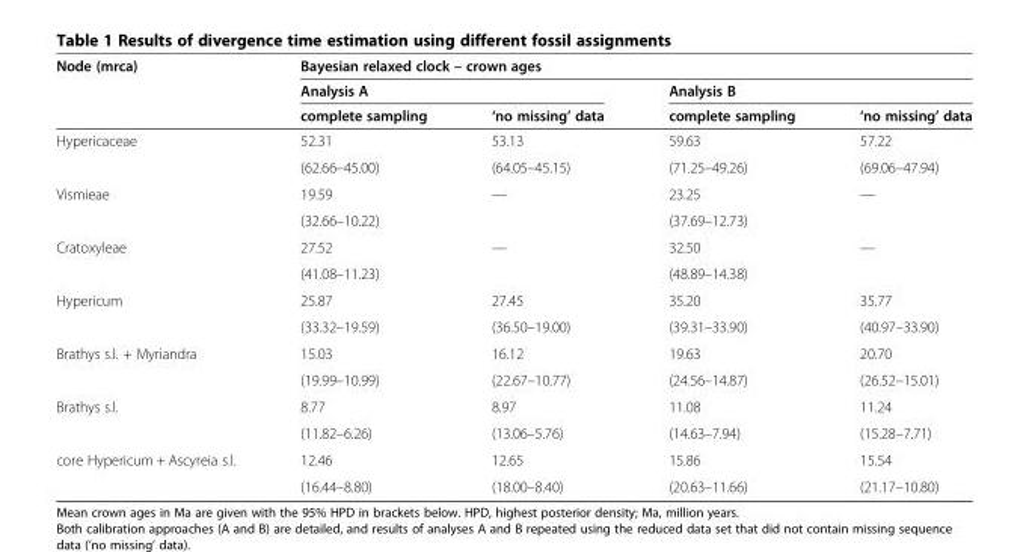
<table><thead><tr><td rowspan="3">Node (mrca)</td><td colspan="4">Bayesian relaxed clock – crown ages</td></tr><tr><td colspan="2">Analysis A</td><td colspan="2">Analysis B</td></tr><tr><td>complete sampling</td><td>‘no missing’ data</td><td>complete sampling</td><td>‘no missing’ data</td></tr></thead><tbody><tr><td rowspan="2">Hypericaceae</td><td>52.31</td><td>53.13</td><td>59.63</td><td>57.22</td></tr><tr><td>(62.66–45.00)</td><td>(64.05–45.15)</td><td>(71.25–49.26)</td><td>(69.06–47.94)</td></tr><tr><td rowspan="2">Vismieae</td><td>19.59</td><td>—</td><td>23.25</td><td>—</td></tr><tr><td>(32.66–10.22)</td><td></td><td>(37.69–12.73)</td><td></td></tr><tr><td rowspan="2">Cratoxyleae</td><td>27.52</td><td>—</td><td>32.50</td><td>—</td></tr><tr><td>(41.08–11.23)</td><td></td><td>(48.89–14.38)</td><td></td></tr><tr><td rowspan="2">Hypericum</td><td>25.87</td><td>27.45</td><td>35.20</td><td>35.77</td></tr><tr><td>(33.32–19.59)</td><td>(36.50–19.00)</td><td>(39.31–33.90)</td><td>(40.97–33.90)</td></tr><tr><td rowspan="2">Brathys s.l. + Myriandra</td><td>15.03</td><td>16.12</td><td>19.63</td><td>20.70</td></tr><tr><td>(19.99–10.99)</td><td>(22.67–10.77)</td><td>(24.56–14.87)</td><td>(26.52–15.01)</td></tr><tr><td rowspan="2">Brathys s.l.</td><td>8.77</td><td>8.97</td><td>11.08</td><td>11.24</td></tr><tr><td>(11.82–6.26)</td><td>(13.06–5.76)</td><td>(14.63–7.94)</td><td>(15.28–7.71)</td></tr><tr><td rowspan="2">core Hypericum + Ascyreia s.l.</td><td>12.46</td><td>12.65</td><td>15.86</td><td>15.54</td></tr><tr><td>(16.44–8.80)</td><td>(18.00–8.40)</td><td>(20.63–11.66)</td><td>(21.17–10.80)</td></tr></tbody></table>